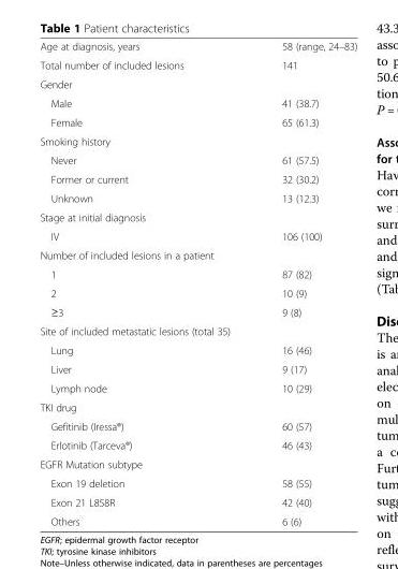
<table><tbody><tr><td>Age at diagnosis, years</td><td>58 (range, 24–83)</td></tr><tr><td>Total number of included lesions</td><td>141</td></tr><tr><td colspan="2">Gender</td></tr><tr><td>Male</td><td>41 (38.7)</td></tr><tr><td>Female</td><td>65 (61.3)</td></tr><tr><td colspan="2">Smoking history</td></tr><tr><td>Never</td><td>61 (57.5)</td></tr><tr><td>Former or current</td><td>32 (30.2)</td></tr><tr><td>Unknown</td><td>13 (12.3)</td></tr><tr><td colspan="2">Stage at initial diagnosis</td></tr><tr><td>IV</td><td>106 (100)</td></tr><tr><td colspan="2">Number of included lesions in a patient</td></tr><tr><td>1</td><td>87 (82)</td></tr><tr><td>2</td><td>10 (9)</td></tr><tr><td>≥3</td><td>9 (8)</td></tr><tr><td colspan="2">Site of included metastatic lesions (total 35)</td></tr><tr><td>Lung</td><td>16 (46)</td></tr><tr><td>Liver</td><td>9 (17)</td></tr><tr><td>Lymph node</td><td>10 (29)</td></tr><tr><td colspan="2">TKI drug</td></tr><tr><td>Gefitinib (Iressa®)</td><td>60 (57)</td></tr><tr><td>Erlotinib (Tarceva®)</td><td>46 (43)</td></tr><tr><td colspan="2">EGFR Mutation subtype</td></tr><tr><td>Exon 19 deletion</td><td>58 (55)</td></tr><tr><td>Exon 21 L858R</td><td>42 (40)</td></tr><tr><td>Others</td><td>6 (6)</td></tr></tbody></table>